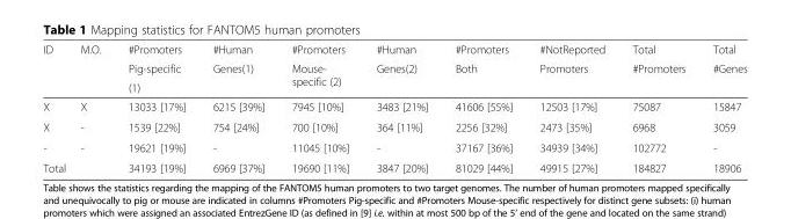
<table><thead><tr><td rowspan="3">ID</td><td rowspan="3">M.O.</td><td rowspan="3">#Promoters Pig-specific (1)</td><td rowspan="3">#Human Genes(1)</td><td rowspan="3">#Promoters Mouse- specific (2)</td><td rowspan="3">#Human Genes(2)</td><td rowspan="3">#Promoters Both</td><td rowspan="3">#NotReported Promoters</td><td rowspan="3">Total #Promoters</td><td rowspan="3">Total #Genes</td></tr><tr></tr><tr></tr></thead><tbody><tr><td>X</td><td>X</td><td>13033 [17%]</td><td>6215 [39%]</td><td>7945 [10%]</td><td>3483 [21%]</td><td>41606 [55%]</td><td>12503 [17%]</td><td>75087</td><td>15847</td></tr><tr><td>X</td><td>-</td><td>1539 [22%]</td><td>754 [24%]</td><td>700 [10%]</td><td>364 [11%]</td><td>2256 [32%]</td><td>2473 [35%]</td><td>6968</td><td>3059</td></tr><tr><td>-</td><td>-</td><td>19621 [19%]</td><td>-</td><td>11045 [10%]</td><td>-</td><td>37167 [36%]</td><td>34939 [34%]</td><td>102772</td><td>-</td></tr><tr><td colspan="2">Total</td><td>34193 [19%]</td><td>6969 [37%]</td><td>19690 [11%]</td><td>3847 [20%]</td><td>81029 [44%]</td><td>49915 [27%]</td><td>184827</td><td>18906</td></tr></tbody></table>